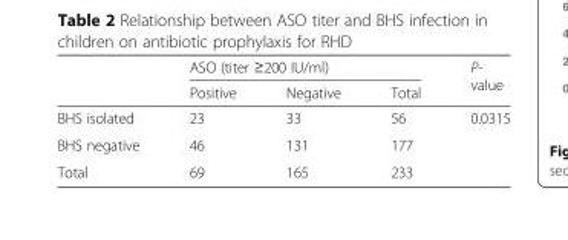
<table><thead><tr><td rowspan="2"></td><td colspan="3">ASO (titer ≥200 IU/ml)</td><td rowspan="2">P- value</td></tr><tr><td>Positive</td><td>Negative</td><td>Total</td></tr></thead><tbody><tr><td>BHS isolated</td><td>23</td><td>33</td><td>56</td><td rowspan="3">0.0315</td></tr><tr><td>BHS negative</td><td>46</td><td>131</td><td>177</td></tr><tr><td>Total</td><td>69</td><td>165</td><td>233</td></tr></tbody></table>